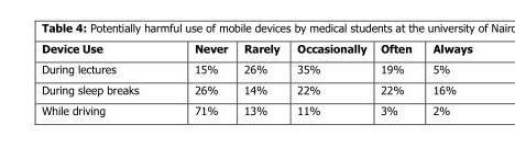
<table><thead><tr><td>Device Use</td><td>Never</td><td>Rarely</td><td>Occasionally</td><td>Often</td><td>Always</td></tr></thead><tbody><tr><td>During lectures</td><td>15%</td><td>26%</td><td>35%</td><td>19%</td><td>5%</td></tr><tr><td>During sleep breaks</td><td>26%</td><td>14%</td><td>22%</td><td>22%</td><td>16%</td></tr><tr><td>While driving</td><td>71%</td><td>13%</td><td>11%</td><td>3%</td><td>2%</td></tr></tbody></table>